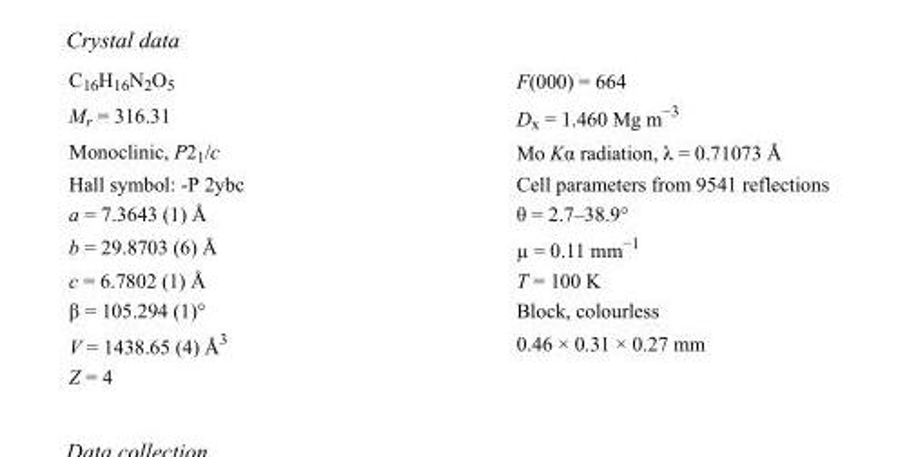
<table><tbody><tr><td>C<sub>16</sub>H<sub>16</sub>N<sub>2</sub>O<sub>5</sub></td><td>F(000) = 664</td></tr><tr><td>M<sub>r</sub> = 316.31</td><td>D<sub>x</sub> = 1.460 Mg m<sup>−3</sup></td></tr><tr><td>Monoclinic, P2<sub>1</sub>/c</td><td>Mo Kα radiation, λ = 0.71073 Å</td></tr><tr><td>Hall symbol: -P 2ybc</td><td>Cell parameters from 9541 reflections</td></tr><tr><td>a = 7.3643 (1) Å</td><td>θ = 2.7–38.9°</td></tr><tr><td>b = 29.8703 (6) Å</td><td>µ = 0.11 mm<sup>−1</sup></td></tr><tr><td>c = 6.7802 (1) Å</td><td>T = 100 K</td></tr><tr><td>β = 105.294 (1)°</td><td>Block, colourless</td></tr><tr><td>V = 1438.65 (4) Å<sup>3</sup></td><td>0.46 × 0.31 × 0.27 mm</td></tr><tr><td>Z = 4</td><td></td></tr></tbody></table>